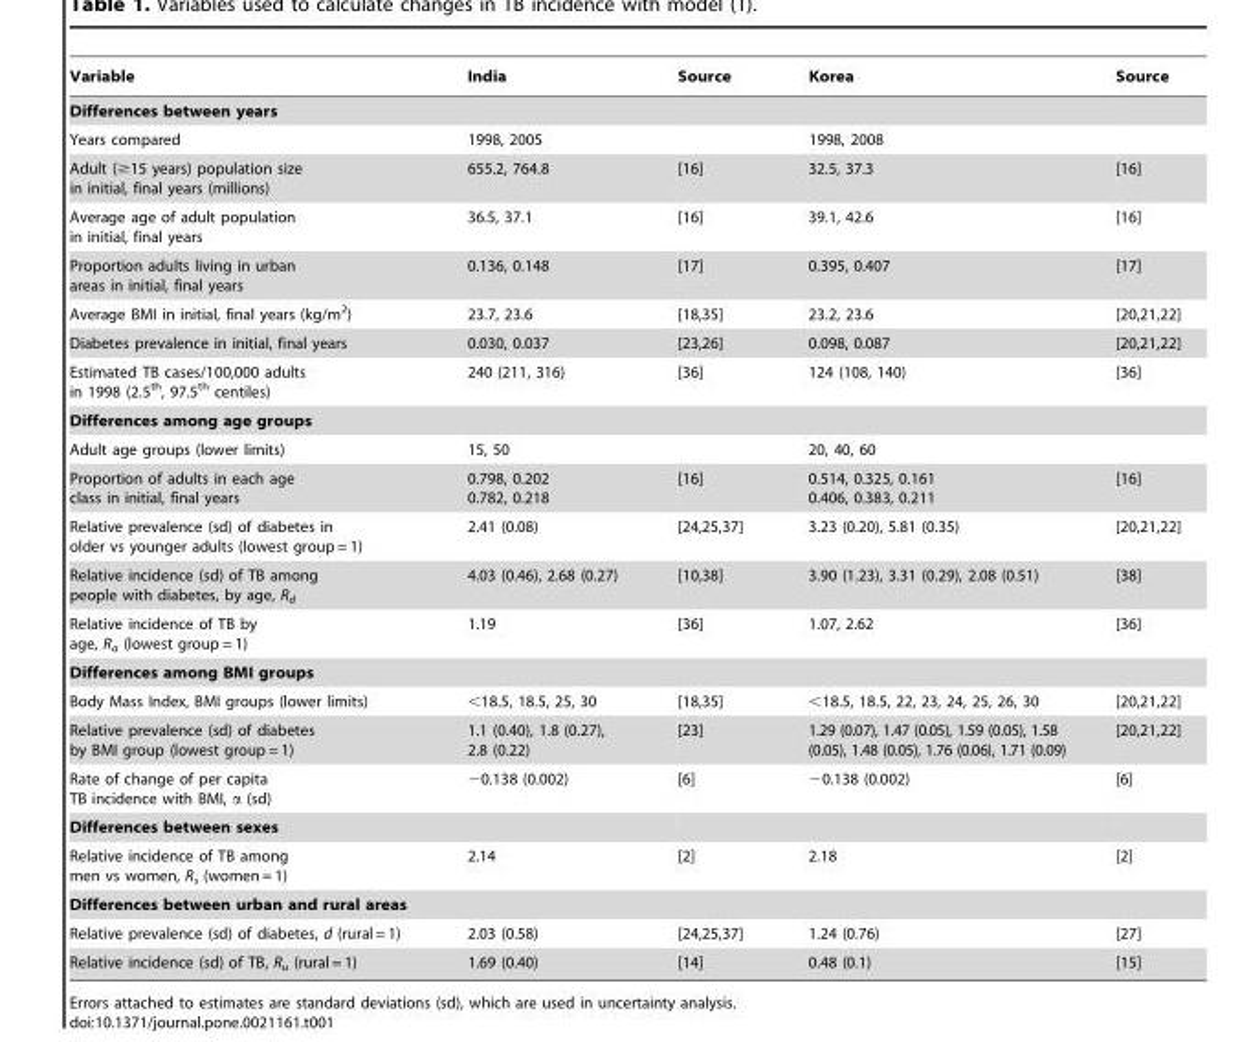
<table><thead><tr><td>Variable</td><td>India</td><td>Source</td><td>Korea</td><td>Source</td></tr></thead><tbody><tr><td colspan="5">Differences between years</td></tr><tr><td>Years compared</td><td>1998, 2005</td><td></td><td>1998, 2008</td><td></td></tr><tr><td>Adult (≥15 years) population size in initial, final years (millions)</td><td>655.2, 764.8</td><td>[16]</td><td>32.5, 37.3</td><td>[16]</td></tr><tr><td>Average age of adult population in initial, final years</td><td>36.5, 37.1</td><td>[16]</td><td>39.1, 42.6</td><td>[16]</td></tr><tr><td>Proportion adults living in urban areas in initial, final years</td><td>0.136, 0.148</td><td>[17]</td><td>0.395, 0.407</td><td>[17]</td></tr><tr><td>Average BMI in initial, final years (kg/m<sup>2</sup>)</td><td>23.7, 23.6</td><td>[18,35]</td><td>23.2, 23.6</td><td>[20,21,22]</td></tr><tr><td>Diabetes prevalence in initial, final years</td><td>0.030, 0.037</td><td>[23,26]</td><td>0.098, 0.087</td><td>[20,21,22]</td></tr><tr><td>Estimated TB cases/100,000 adults in 1998 (2.5<sup>th</sup>, 97.5<sup>th</sup> centiles)</td><td>240 (211, 316)</td><td>[36]</td><td>124 (108, 140)</td><td>[36]</td></tr><tr><td colspan="5">Differences among age groups</td></tr><tr><td>Adult age groups (lower limits)</td><td>15, 50</td><td></td><td>20, 40, 60</td><td></td></tr><tr><td>Proportion of adults in each age class in initial, final years</td><td>0.798, 0.202 0.782, 0.218</td><td>[16]</td><td>0.514, 0.325, 0.161 0.406, 0.383, 0.211</td><td>[16]</td></tr><tr><td>Relative prevalence (sd) of diabetes in older vs younger adults (lowest group = 1)</td><td>2.41 (0.08)</td><td>[24,25,37]</td><td>3.23 (0.20), 5.81 (0.35)</td><td>[20,21,22]</td></tr><tr><td>Relative incidence (sd) of TB among people with diabetes, by age, R<sub>d</sub></td><td>4.03 (0.46), 2.68 (0.27)</td><td>[10,38]</td><td>3.90 (1.23), 3.31 (0.29), 2.08 (0.51)</td><td>[38]</td></tr><tr><td>Relative incidence of TB by age, R<sub>a</sub> (lowest group = 1)</td><td>1.19</td><td>[36]</td><td>1.07, 2.62</td><td>[36]</td></tr><tr><td colspan="5">Differences among BMI groups</td></tr><tr><td>Body Mass Index, BMI groups (lower limits)</td><td>&lt;18.5, 18.5, 25, 30</td><td>[18,35]</td><td>&lt;18.5, 18.5, 22, 23, 24, 25, 26, 30</td><td>[20,21,22]</td></tr><tr><td>Relative prevalence (sd) of diabetes by BMI group (lowest group = 1)</td><td>1.1 (0.40), 1.8 (0.27), 2.8 (0.22)</td><td>[23]</td><td>1.29 (0.07), 1.47 (0.05), 1.59 (0.05), 1.58 (0.05), 1.48 (0.05), 1.76 (0.06), 1.71 (0.09)</td><td>[20,21,22]</td></tr><tr><td>Rate of change of per capita TB incidence with BMI, α (sd)</td><td>−0.138 (0.002)</td><td>[6]</td><td>−0.138 (0.002)</td><td>[6]</td></tr><tr><td colspan="5">Differences between sexes</td></tr><tr><td>Relative incidence of TB among men vs women, R<sub>s</sub> (women = 1)</td><td>2.14</td><td>[2]</td><td>2.18</td><td>[2]</td></tr><tr><td colspan="5">Differences between urban and rural areas</td></tr><tr><td>Relative prevalence (sd) of diabetes, d (rural = 1)</td><td>2.03 (0.58)</td><td>[24,25,37]</td><td>1.24 (0.76)</td><td>[27]</td></tr><tr><td>Relative incidence (sd) of TB, R<sub>u</sub> (rural = 1)</td><td>1.69 (0.40)</td><td>[14]</td><td>0.48 (0.1)</td><td>[15]</td></tr></tbody></table>